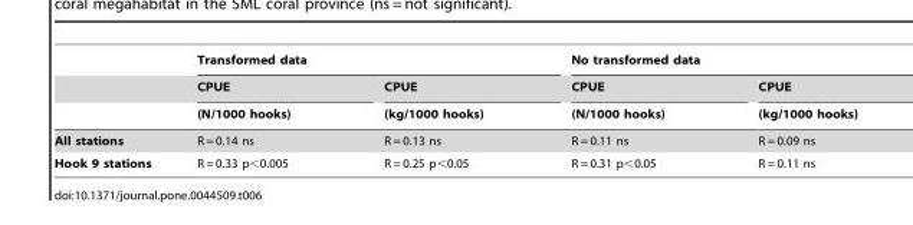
<table><thead><tr><td rowspan="3"></td><td colspan="2">Transformed data</td><td colspan="2">No transformed data</td></tr><tr><td rowspan="2">CPUE (N/1000 hooks)</td><td rowspan="2">CPUE (kg/1000 hooks)</td><td rowspan="2">CPUE (N/1000 hooks)</td><td rowspan="2">CPUE (kg/1000 hooks)</td></tr><tr></tr></thead><tbody><tr><td>All stations</td><td>R = 0.14 ns</td><td>R = 0.13 ns</td><td>R = 0.11 ns</td><td>R = 0.09 ns</td></tr><tr><td>Hook 9 stations</td><td>R = 0.33 p&lt;0.005</td><td>R = 0.25 p&lt;0.05</td><td>R = 0.31 p&lt;0.05</td><td>R = 0.11 ns</td></tr></tbody></table>